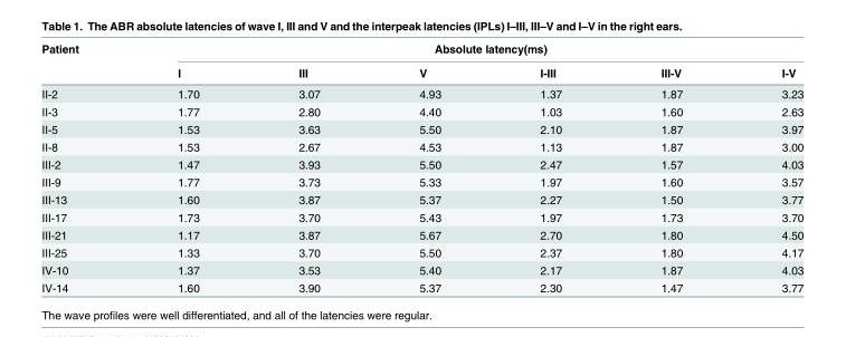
<table><thead><tr><td rowspan="2">Patient</td><td colspan="6">Absolute latency(ms)</td></tr><tr><td>I</td><td>III</td><td>V</td><td>I-III</td><td>III-V</td><td>I-V</td></tr></thead><tbody><tr><td>II-2</td><td>1.70</td><td>3.07</td><td>4.93</td><td>1.37</td><td>1.87</td><td>3.23</td></tr><tr><td>II-3</td><td>1.77</td><td>2.80</td><td>4.40</td><td>1.03</td><td>1.60</td><td>2.63</td></tr><tr><td>II-5</td><td>1.53</td><td>3.63</td><td>5.50</td><td>2.10</td><td>1.87</td><td>3.97</td></tr><tr><td>II-8</td><td>1.53</td><td>2.67</td><td>4.53</td><td>1.13</td><td>1.87</td><td>3.00</td></tr><tr><td>III-2</td><td>1.47</td><td>3.93</td><td>5.50</td><td>2.47</td><td>1.57</td><td>4.03</td></tr><tr><td>III-9</td><td>1.77</td><td>3.73</td><td>5.33</td><td>1.97</td><td>1.60</td><td>3.57</td></tr><tr><td>III-13</td><td>1.60</td><td>3.87</td><td>5.37</td><td>2.27</td><td>1.50</td><td>3.77</td></tr><tr><td>III-17</td><td>1.73</td><td>3.70</td><td>5.43</td><td>1.97</td><td>1.73</td><td>3.70</td></tr><tr><td>III-21</td><td>1.17</td><td>3.87</td><td>5.67</td><td>2.70</td><td>1.80</td><td>4.50</td></tr><tr><td>III-25</td><td>1.33</td><td>3.70</td><td>5.50</td><td>2.37</td><td>1.80</td><td>4.17</td></tr><tr><td>IV-10</td><td>1.37</td><td>3.53</td><td>5.40</td><td>2.17</td><td>1.87</td><td>4.03</td></tr><tr><td>IV-14</td><td>1.60</td><td>3.90</td><td>5.37</td><td>2.30</td><td>1.47</td><td>3.77</td></tr></tbody></table>